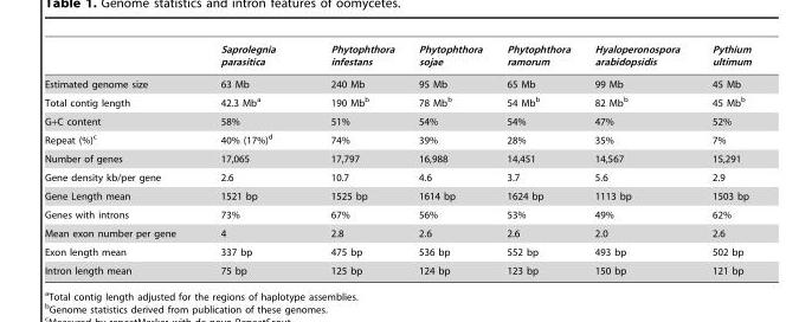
<table><thead><tr><td></td><td>Saprolegnia parasitica</td><td>Phytophthora infestans</td><td>Phytophthora sojae</td><td>Phytophthora ramorum</td><td>Hyaloperonospora arabidopsidis</td><td>Pythium ultimum</td></tr></thead><tbody><tr><td>Estimated genome size</td><td>63 Mb</td><td>240 Mb</td><td>95 Mb</td><td>65 Mb</td><td>99 Mb</td><td>45 Mb</td></tr><tr><td>Total contig length</td><td>42.3 Mb<sup>a</sup></td><td>190 Mb<sup>b</sup></td><td>78 Mb<sup>b</sup></td><td>54 Mb<sup>b</sup></td><td>82 Mb<sup>b</sup></td><td>45 Mb<sup>b</sup></td></tr><tr><td>G+C content</td><td>58%</td><td>51%</td><td>54%</td><td>54%</td><td>47%</td><td>52%</td></tr><tr><td>Repeat (%)<sup>c</sup></td><td>40% (17%)<sup>d</sup></td><td>74%</td><td>39%</td><td>28%</td><td>35%</td><td>7%</td></tr><tr><td>Number of genes</td><td>17,065</td><td>17,797</td><td>16,988</td><td>14,451</td><td>14,567</td><td>15,291</td></tr><tr><td>Gene density kb/per gene</td><td>2.6</td><td>10.7</td><td>4.6</td><td>3.7</td><td>5.6</td><td>2.9</td></tr><tr><td>Gene Length mean</td><td>1521 bp</td><td>1525 bp</td><td>1614 bp</td><td>1624 bp</td><td>1113 bp</td><td>1503 bp</td></tr><tr><td>Genes with introns</td><td>73%</td><td>67%</td><td>56%</td><td>53%</td><td>49%</td><td>62%</td></tr><tr><td>Mean exon number per gene</td><td>4</td><td>2.8</td><td>2.6</td><td>2.6</td><td>2.0</td><td>2.6</td></tr><tr><td>Exon length mean</td><td>337 bp</td><td>475 bp</td><td>536 bp</td><td>552 bp</td><td>493 bp</td><td>502 bp</td></tr><tr><td>Intron length mean</td><td>75 bp</td><td>125 bp</td><td>124 bp</td><td>123 bp</td><td>150 bp</td><td>121 bp</td></tr></tbody></table>